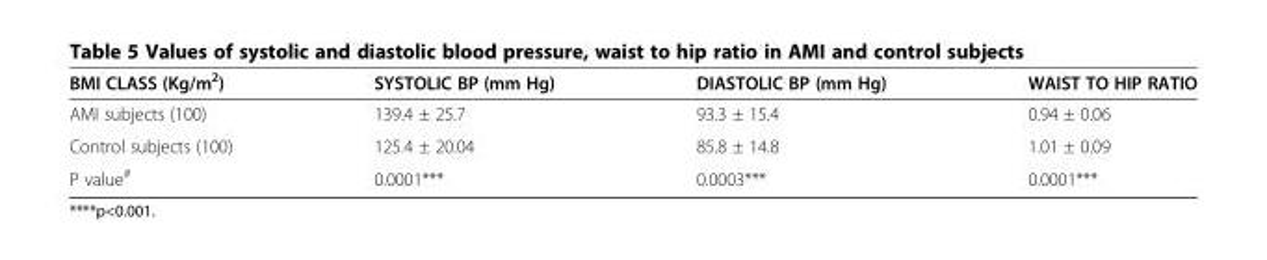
<table><thead><tr><td>BMI CLASS (Kg/m<sup>2</sup>)</td><td>SYSTOLIC BP (mm Hg)</td><td>DIASTOLIC BP (mm Hg)</td><td>WAIST TO HIP RATIO</td></tr></thead><tbody><tr><td>AMI subjects (100)</td><td>139.4 ± 25.7</td><td>93.3 ± 15.4</td><td>0.94 ± 0.06</td></tr><tr><td>Control subjects (100)</td><td>125.4 ± 20.04</td><td>85.8 ± 14.8</td><td>1.01 ± 0.09</td></tr><tr><td>P value<sup>#</sup></td><td>0.0001***</td><td>0.0003***</td><td>0.0001***</td></tr></tbody></table>